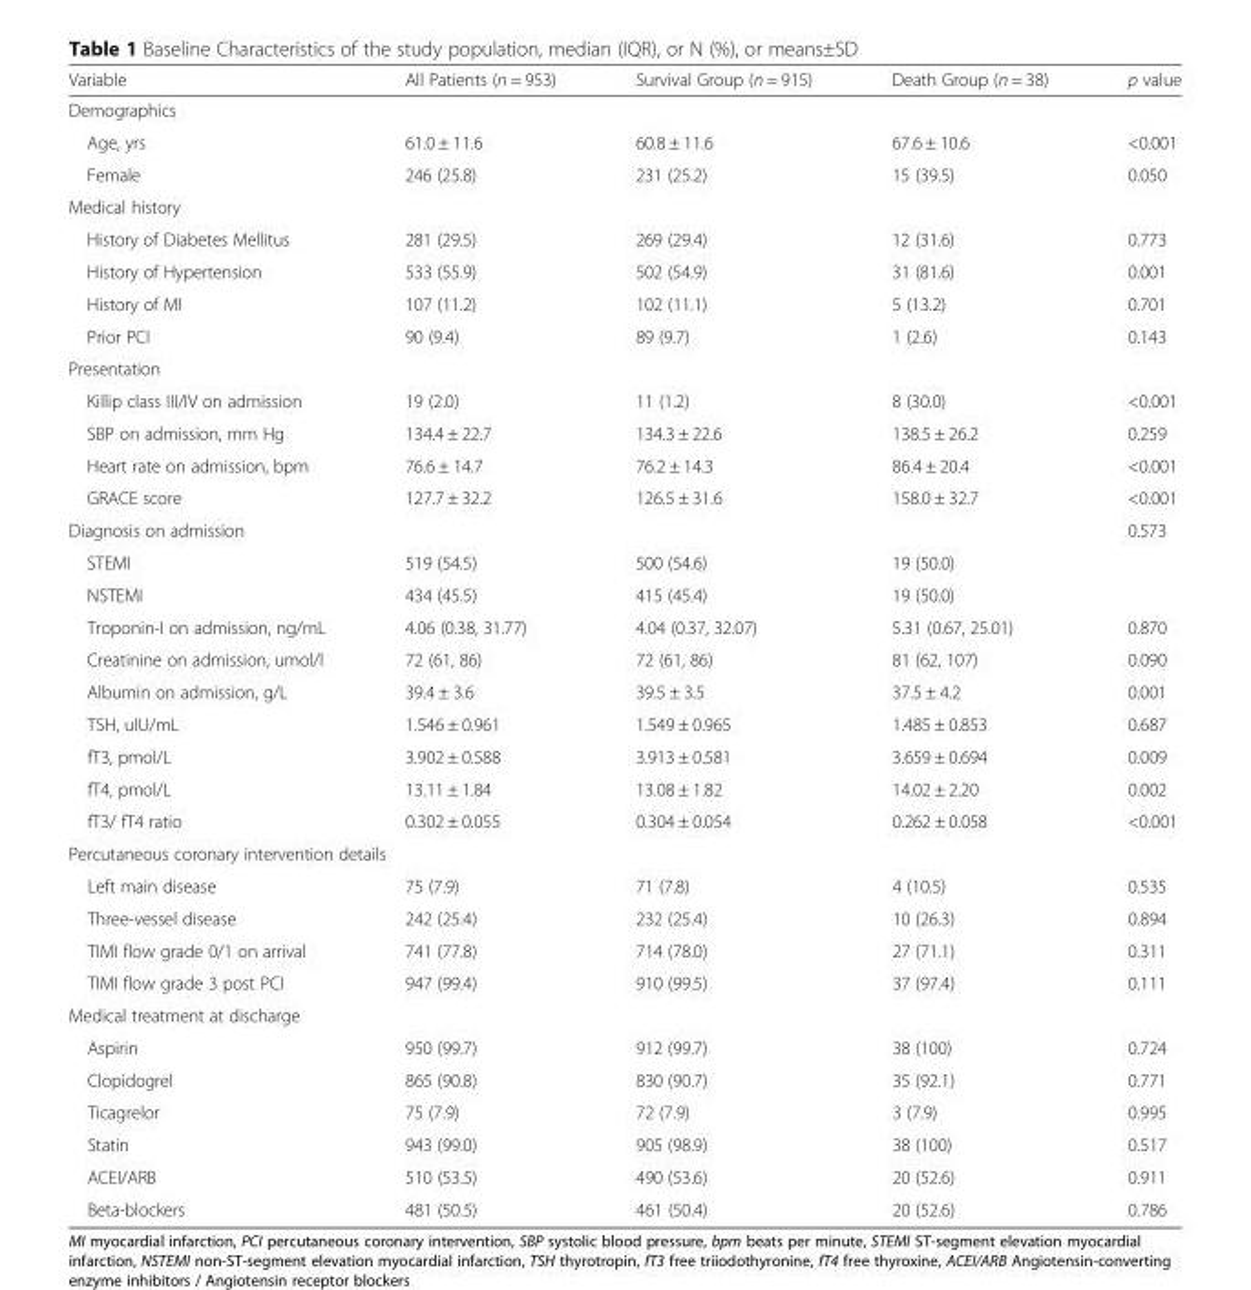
<table><thead><tr><td>Variable</td><td>All Patients (n = 953)</td><td>Survival Group (n = 915)</td><td>Death Group (n = 38)</td><td>p value</td></tr></thead><tbody><tr><td colspan="5">Demographics</td></tr><tr><td>Age, yrs</td><td>61.0 ± 11.6</td><td>60.8 ± 11.6</td><td>67.6 ± 10.6</td><td>&lt;0.001</td></tr><tr><td>Female</td><td>246 (25.8)</td><td>231 (25.2)</td><td>15 (39.5)</td><td>0.050</td></tr><tr><td colspan="5">Medical history</td></tr><tr><td>History of Diabetes Mellitus</td><td>281 (29.5)</td><td>269 (29.4)</td><td>12 (31.6)</td><td>0.773</td></tr><tr><td>History of Hypertension</td><td>533 (55.9)</td><td>502 (54.9)</td><td>31 (81.6)</td><td>0.001</td></tr><tr><td>History of MI</td><td>107 (11.2)</td><td>102 (11.1)</td><td>5 (13.2)</td><td>0.701</td></tr><tr><td>Prior PCI</td><td>90 (9.4)</td><td>89 (9.7)</td><td>1 (2.6)</td><td>0.143</td></tr><tr><td colspan="5">Presentation</td></tr><tr><td>Killip class III/IV on admission</td><td>19 (2.0)</td><td>11 (1.2)</td><td>8 (30.0)</td><td>&lt;0.001</td></tr><tr><td>SBP on admission, mm Hg</td><td>134.4 ± 22.7</td><td>134.3 ± 22.6</td><td>138.5 ± 26.2</td><td>0.259</td></tr><tr><td>Heart rate on admission, bpm</td><td>76.6 ± 14.7</td><td>76.2 ± 14.3</td><td>86.4 ± 20.4</td><td>&lt;0.001</td></tr><tr><td>GRACE score</td><td>127.7 ± 32.2</td><td>126.5 ± 31.6</td><td>158.0 ± 32.7</td><td>&lt;0.001</td></tr><tr><td>Diagnosis on admission</td><td></td><td></td><td></td><td>0.573</td></tr><tr><td>STEMI</td><td>519 (54.5)</td><td>500 (54.6)</td><td>19 (50.0)</td><td></td></tr><tr><td>NSTEMI</td><td>434 (45.5)</td><td>415 (45.4)</td><td>19 (50.0)</td><td></td></tr><tr><td>Troponin-I on admission, ng/mL</td><td>4.06 (0.38, 31.77)</td><td>4.04 (0.37, 32.07)</td><td>5.31 (0.67, 25.01)</td><td>0.870</td></tr><tr><td>Creatinine on admission, umol/l</td><td>72 (61, 86)</td><td>72 (61, 86)</td><td>81 (62, 107)</td><td>0.090</td></tr><tr><td>Albumin on admission, g/L</td><td>39.4 ± 3.6</td><td>39.5 ± 3.5</td><td>37.5 ± 4.2</td><td>0.001</td></tr><tr><td>TSH, uIU/mL</td><td>1.546 ± 0.961</td><td>1.549 ± 0.965</td><td>1.485 ± 0.853</td><td>0.687</td></tr><tr><td>fT3, pmol/L</td><td>3.902 ± 0.588</td><td>3.913 ± 0.581</td><td>3.659 ± 0.694</td><td>0.009</td></tr><tr><td>fT4, pmol/L</td><td>13.11 ± 1.84</td><td>13.08 ± 1.82</td><td>14.02 ± 2.20</td><td>0.002</td></tr><tr><td>fT3/ fT4 ratio</td><td>0.302 ± 0.055</td><td>0.304 ± 0.054</td><td>0.262 ± 0.058</td><td>&lt;0.001</td></tr><tr><td colspan="5">Percutaneous coronary intervention details</td></tr><tr><td>Left main disease</td><td>75 (7.9)</td><td>71 (7.8)</td><td>4 (10.5)</td><td>0.535</td></tr><tr><td>Three-vessel disease</td><td>242 (25.4)</td><td>232 (25.4)</td><td>10 (26.3)</td><td>0.894</td></tr><tr><td>TIMI flow grade 0/1 on arrival</td><td>741 (77.8)</td><td>714 (78.0)</td><td>27 (71.1)</td><td>0.311</td></tr><tr><td>TIMI flow grade 3 post PCI</td><td>947 (99.4)</td><td>910 (99.5)</td><td>37 (97.4)</td><td>0.111</td></tr><tr><td colspan="5">Medical treatment at discharge</td></tr><tr><td>Aspirin</td><td>950 (99.7)</td><td>912 (99.7)</td><td>38 (100)</td><td>0.724</td></tr><tr><td>Clopidogrel</td><td>865 (90.8)</td><td>830 (90.7)</td><td>35 (92.1)</td><td>0.771</td></tr><tr><td>Ticagrelor</td><td>75 (7.9)</td><td>72 (7.9)</td><td>3 (7.9)</td><td>0.995</td></tr><tr><td>Statin</td><td>943 (99.0)</td><td>905 (98.9)</td><td>38 (100)</td><td>0.517</td></tr><tr><td>ACEI/ARB</td><td>510 (53.5)</td><td>490 (53.6)</td><td>20 (52.6)</td><td>0.911</td></tr><tr><td>Beta-blockers</td><td>481 (50.5)</td><td>461 (50.4)</td><td>20 (52.6)</td><td>0.786</td></tr></tbody></table>